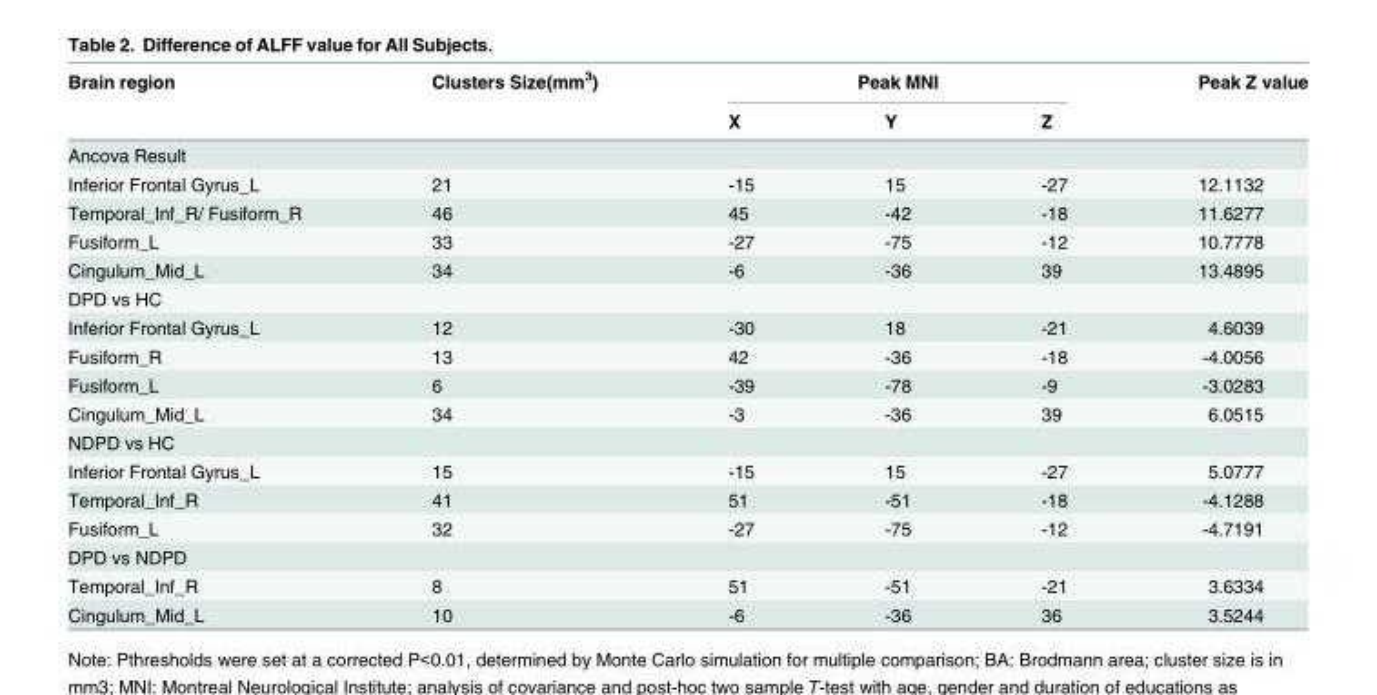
<table><thead><tr><td rowspan="2">Brain region</td><td rowspan="2">Clusters Size(mm<sup>3</sup>)</td><td colspan="3">Peak MNI</td><td rowspan="2">Peak Z value</td></tr><tr><td>X</td><td>Y</td><td>Z</td></tr></thead><tbody><tr><td colspan="6">Ancova Result</td></tr><tr><td>Inferior Frontal Gyrus_L</td><td>21</td><td>-15</td><td>15</td><td>-27</td><td>12.1132</td></tr><tr><td>Temporal_Inf_R/ Fusiform_R</td><td>46</td><td>45</td><td>-42</td><td>-18</td><td>11.6277</td></tr><tr><td>Fusiform_L</td><td>33</td><td>-27</td><td>-75</td><td>-12</td><td>10.7778</td></tr><tr><td>Cingulum_Mid_L</td><td>34</td><td>-6</td><td>-36</td><td>39</td><td>13.4895</td></tr><tr><td colspan="6">DPD vs HC</td></tr><tr><td>Inferior Frontal Gyrus_L</td><td>12</td><td>-30</td><td>18</td><td>-21</td><td>4.6039</td></tr><tr><td>Fusiform_R</td><td>13</td><td>42</td><td>-36</td><td>-18</td><td>-4.0056</td></tr><tr><td>Fusiform_L</td><td>6</td><td>-39</td><td>-78</td><td>-9</td><td>-3.0283</td></tr><tr><td>Cingulum_Mid_L</td><td>34</td><td>-3</td><td>-36</td><td>39</td><td>6.0515</td></tr><tr><td colspan="6">NDPD vs HC</td></tr><tr><td>Inferior Frontal Gyrus_L</td><td>15</td><td>-15</td><td>15</td><td>-27</td><td>5.0777</td></tr><tr><td>Temporal_Inf_R</td><td>41</td><td>51</td><td>-51</td><td>-18</td><td>-4.1288</td></tr><tr><td>Fusiform_L</td><td>32</td><td>-27</td><td>-75</td><td>-12</td><td>-4.7191</td></tr><tr><td colspan="6">DPD vs NDPD</td></tr><tr><td>Temporal_Inf_R</td><td>8</td><td>51</td><td>-51</td><td>-21</td><td>3.6334</td></tr><tr><td>Cingulum_Mid_L</td><td>10</td><td>-6</td><td>-36</td><td>36</td><td>3.5244</td></tr></tbody></table>